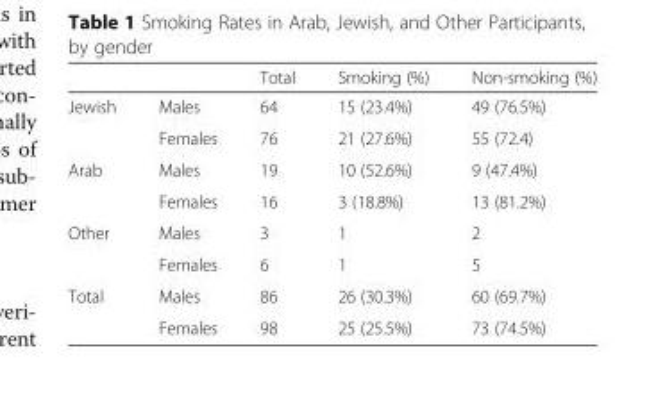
<table><thead><tr><td></td><td></td><td>Total</td><td>Smoking (%)</td><td>Non-smoking (%)</td></tr></thead><tbody><tr><td rowspan="2">Jewish</td><td>Males</td><td>64</td><td>15 (23.4%)</td><td>49 (76.5%)</td></tr><tr><td>Females</td><td>76</td><td>21 (27.6%)</td><td>55 (72.4)</td></tr><tr><td rowspan="2">Arab</td><td>Males</td><td>19</td><td>10 (52.6%)</td><td>9 (47.4%)</td></tr><tr><td>Females</td><td>16</td><td>3 (18.8%)</td><td>13 (81.2%)</td></tr><tr><td rowspan="2">Other</td><td>Males</td><td>3</td><td>1</td><td>2</td></tr><tr><td>Females</td><td>6</td><td>1</td><td>5</td></tr><tr><td rowspan="2">Total</td><td>Males</td><td>86</td><td>26 (30.3%)</td><td>60 (69.7%)</td></tr><tr><td>Females</td><td>98</td><td>25 (25.5%)</td><td>73 (74.5%)</td></tr></tbody></table>